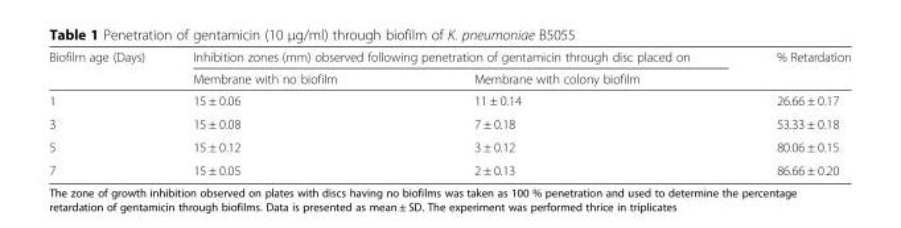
<table><thead><tr><td rowspan="2">Biofilm age (Days)</td><td colspan="2">Inhibition zones (mm) observed following penetration of gentamicin through disc placed on</td><td rowspan="2">% Retardation</td></tr><tr><td>Membrane with no biofilm</td><td>Membrane with colony biofilm</td></tr></thead><tbody><tr><td>1</td><td>15 ± 0.06</td><td>11 ± 0.14</td><td>26.66 ± 0.17</td></tr><tr><td>3</td><td>15 ± 0.08</td><td>7 ± 0.18</td><td>53.33 ± 0.18</td></tr><tr><td>5</td><td>15 ± 0.12</td><td>3 ± 0.12</td><td>80.06 ± 0.15</td></tr><tr><td>7</td><td>15 ± 0.05</td><td>2 ± 0.13</td><td>86.66 ± 0.20</td></tr></tbody></table>